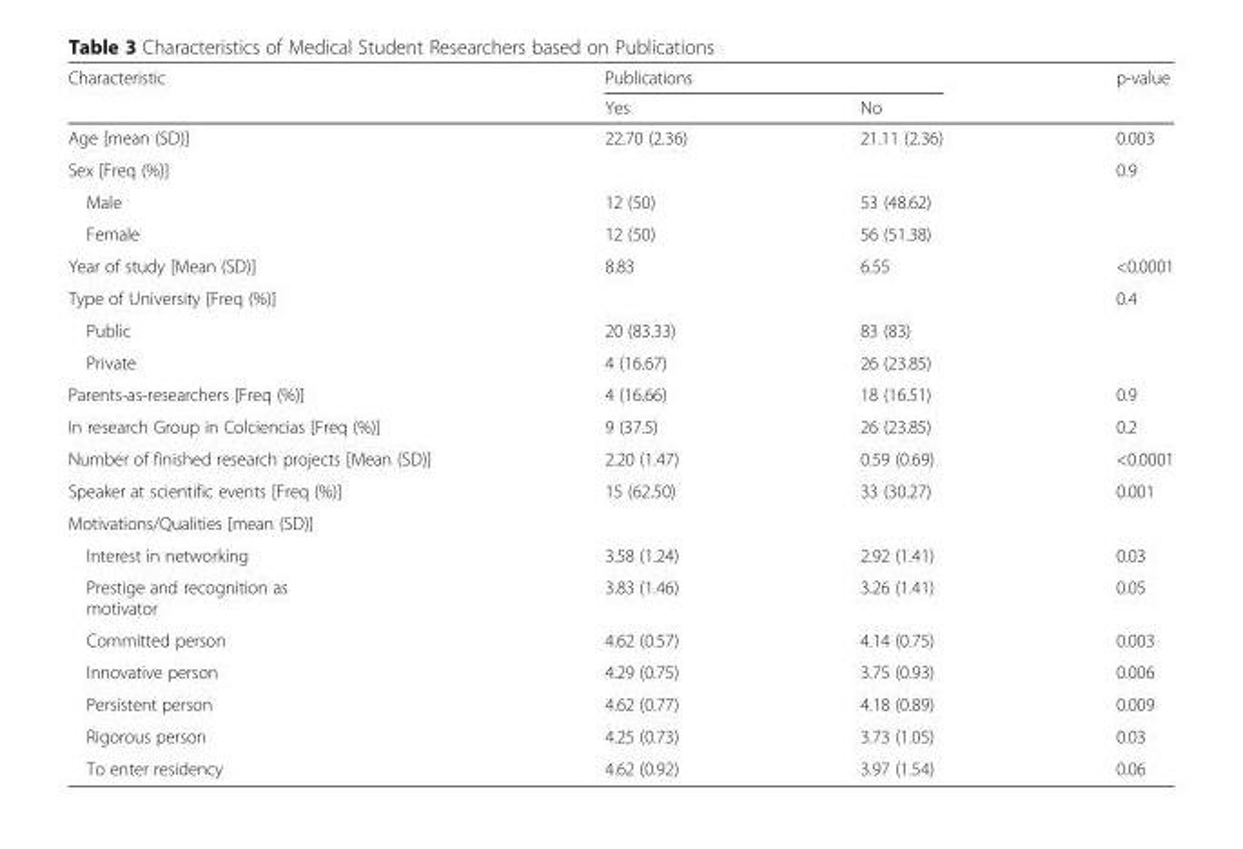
<table><thead><tr><td rowspan="2">Characteristic</td><td colspan="2">Publications</td><td rowspan="2">p-value</td></tr><tr><td>Yes</td><td>No</td></tr></thead><tbody><tr><td>Age [mean (SD)]</td><td>22.70 (2.36)</td><td>21.11 (2.36)</td><td>0.003</td></tr><tr><td colspan="3">Sex [Freq (%)]</td><td rowspan="3">0.9</td></tr><tr><td>Male</td><td>12 (50)</td><td>53 (48.62)</td></tr><tr><td>Female</td><td>12 (50)</td><td>56 (51.38)</td></tr><tr><td>Year of study [Mean (SD)]</td><td>8.83</td><td>6.55</td><td>&lt;0.0001</td></tr><tr><td colspan="3">Type of University [Freq (%)]</td><td rowspan="3">0.4</td></tr><tr><td>Public</td><td>20 (83.33)</td><td>83 (83)</td></tr><tr><td>Private</td><td>4 (16.67)</td><td>26 (23.85)</td></tr><tr><td>Parents-as-researchers [Freq (%)]</td><td>4 (16.66)</td><td>18 (16.51)</td><td>0.9</td></tr><tr><td>In research Group in Colciencias [Freq (%)]</td><td>9 (37.5)</td><td>26 (23.85)</td><td>0.2</td></tr><tr><td>Number of finished research projects [Mean (SD)]</td><td>2.20 (1.47)</td><td>0.59 (0.69)</td><td>&lt;0.0001</td></tr><tr><td>Speaker at scientific events [Freq (%)]</td><td>15 (62.50)</td><td>33 (30.27)</td><td>0.001</td></tr><tr><td colspan="4">Motivations/Qualities [mean (SD)]</td></tr><tr><td>Interest in networking</td><td>3.58 (1.24)</td><td>2.92 (1.41)</td><td>0.03</td></tr><tr><td>Prestige and recognition as motivator</td><td>3.83 (1.46)</td><td>3.26 (1.41)</td><td>0.05</td></tr><tr><td>Committed person</td><td>4.62 (0.57)</td><td>4.14 (0.75)</td><td>0.003</td></tr><tr><td>Innovative person</td><td>4.29 (0.75)</td><td>3.75 (0.93)</td><td>0.006</td></tr><tr><td>Persistent person</td><td>4.62 (0.77)</td><td>4.18 (0.89)</td><td>0.009</td></tr><tr><td>Rigorous person</td><td>4.25 (0.73)</td><td>3.73 (1.05)</td><td>0.03</td></tr><tr><td>To enter residency</td><td>4.62 (0.92)</td><td>3.97 (1.54)</td><td>0.06</td></tr></tbody></table>